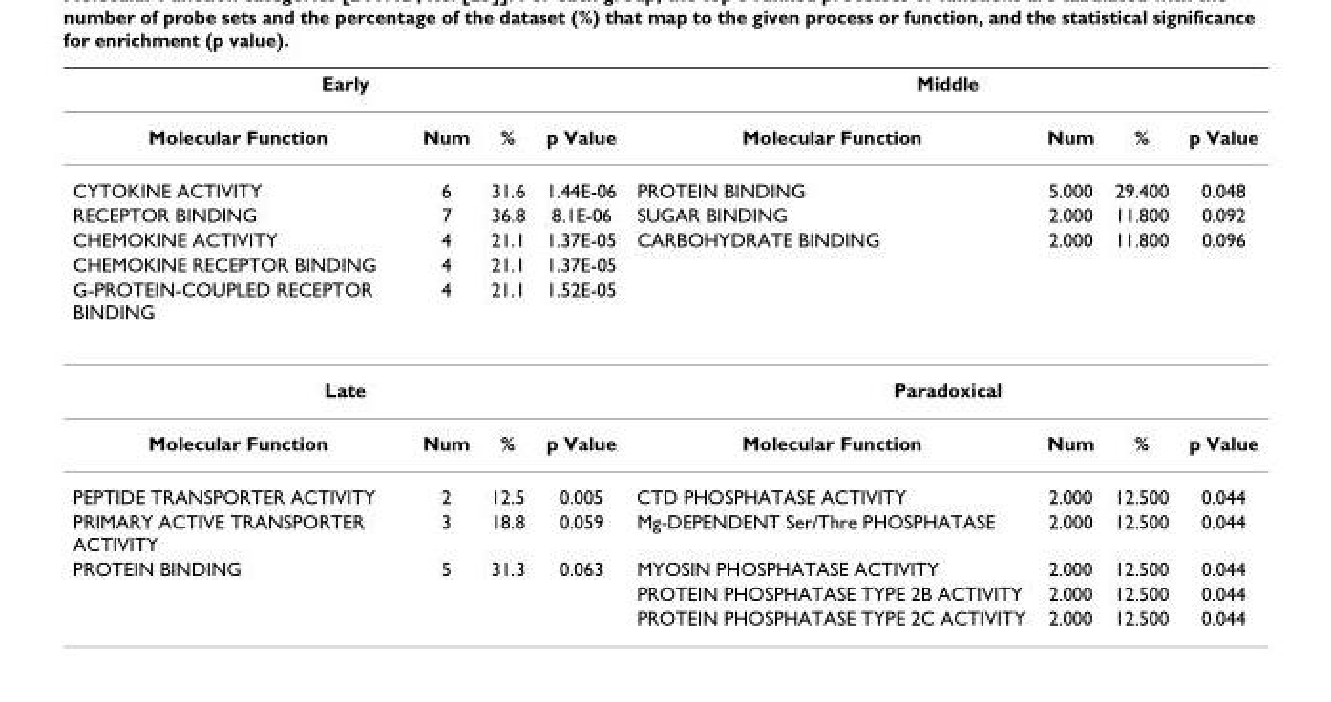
<table><thead><tr><td colspan="4">Early</td><td colspan="4">Middle</td></tr><tr><td>Molecular Function</td><td>Num</td><td>%</td><td>p Value</td><td>Molecular Function</td><td>Num</td><td>%</td><td>p Value</td></tr></thead><tbody><tr><td>CYTOKINE ACTIVITY</td><td>6</td><td>31.6</td><td>1.44E-06</td><td>PROTEIN BINDING</td><td>5.000</td><td>29.400</td><td>0.048</td></tr><tr><td>RECEPTOR BINDING</td><td>7</td><td>36.8</td><td>8.1E-06</td><td>SUGAR BINDING</td><td>2.000</td><td>11.800</td><td>0.092</td></tr><tr><td>CHEMOKINE ACTIVITY</td><td>4</td><td>21.1</td><td>1.37E-05</td><td>CARBOHYDRATE BINDING</td><td>2.000</td><td>11.800</td><td>0.096</td></tr><tr><td>CHEMOKINE RECEPTOR BINDING</td><td>4</td><td>21.1</td><td>1.37E-05</td><td></td><td></td><td></td><td></td></tr><tr><td>G-PROTEIN-COUPLED RECEPTOR BINDING</td><td>4</td><td>21.1</td><td>1.52E-05</td><td></td><td></td><td></td><td></td></tr><tr><td colspan="4">Late</td><td colspan="4">Paradoxical</td></tr><tr><td>Molecular Function</td><td>Num</td><td>%</td><td>p Value</td><td>Molecular Function</td><td>Num</td><td>%</td><td>p Value</td></tr><tr><td>PEPTIDE TRANSPORTER ACTIVITY</td><td>2</td><td>12.5</td><td>0.005</td><td>CTD PHOSPHATASE ACTIVITY</td><td>2.000</td><td>12.500</td><td>0.044</td></tr><tr><td>PRIMARY ACTIVE TRANSPORTER ACTIVITY</td><td>3</td><td>18.8</td><td>0.059</td><td>Mg-DEPENDENT Ser/Thre PHOSPHATASE</td><td>2.000</td><td>12.500</td><td>0.044</td></tr><tr><td rowspan="3">PROTEIN BINDING</td><td>5</td><td>31.3</td><td>0.063</td><td>MYOSIN PHOSPHATASE ACTIVITY</td><td>2.000</td><td>12.500</td><td>0.044</td></tr><tr><td></td><td></td><td></td><td>PROTEIN PHOSPHATASE TYPE 2B ACTIVITY</td><td>2.000</td><td>12.500</td><td>0.044</td></tr><tr><td></td><td></td><td></td><td>PROTEIN PHOSPHATASE TYPE 2C ACTIVITY</td><td>2.000</td><td>12.500</td><td>0.044</td></tr></tbody></table>